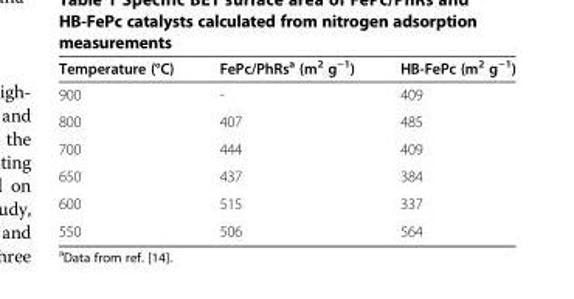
<table><thead><tr><td>Temperature (°C)</td><td>FePc/PhRs<sup>a</sup> (m<sup>2</sup> g<sup>−1</sup>)</td><td>HB-FePc (m<sup>2</sup> g<sup>−1</sup>)</td></tr></thead><tbody><tr><td>900</td><td>-</td><td>409</td></tr><tr><td>800</td><td>407</td><td>485</td></tr><tr><td>700</td><td>444</td><td>409</td></tr><tr><td>650</td><td>437</td><td>384</td></tr><tr><td>600</td><td>515</td><td>337</td></tr><tr><td>550</td><td>506</td><td>564</td></tr></tbody></table>